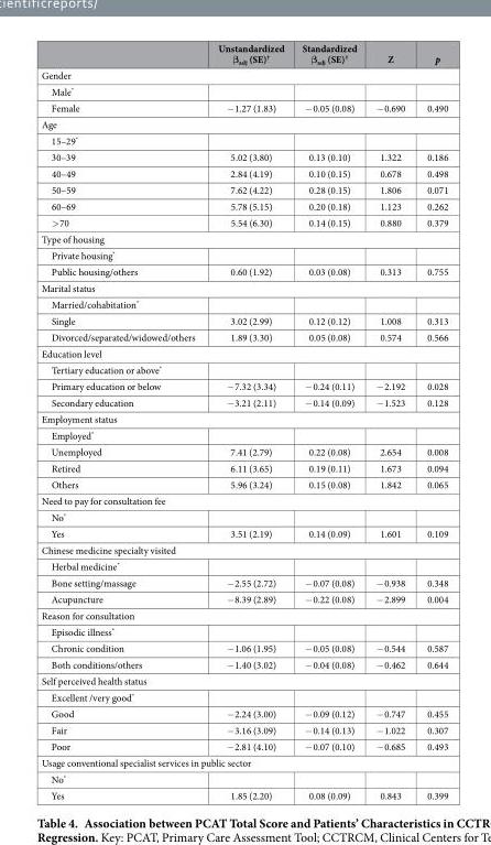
<table><thead><tr><td></td><td>Unstandardized β<sub>adj</sub> (SE)<sup>†</sup></td><td>Standardized β<sub>adj</sub> (SE)<sup>†</sup></td><td>Z</td><td>p</td></tr></thead><tbody><tr><td colspan="5">Gender</td></tr><tr><td colspan="5">Male*</td></tr><tr><td>Female</td><td>− 1.27 (1.83)</td><td>− 0.05 (0.08)</td><td>− 0.690</td><td>0.490</td></tr><tr><td colspan="5">Age</td></tr><tr><td colspan="5">15–29*</td></tr><tr><td>30–39</td><td>5.02 (3.80)</td><td>0.13 (0.10)</td><td>1.322</td><td>0.186</td></tr><tr><td>40–49</td><td>2.84 (4.19)</td><td>0.10 (0.15)</td><td>0.678</td><td>0.498</td></tr><tr><td>50–59</td><td>7.62 (4.22)</td><td>0.28 (0.15)</td><td>1.806</td><td>0.071</td></tr><tr><td>60–69</td><td>5.78 (5.15)</td><td>0.20 (0.18)</td><td>1.123</td><td>0.262</td></tr><tr><td>&gt; 70</td><td>5.54 (6.30)</td><td>0.14 (0.15)</td><td>0.880</td><td>0.379</td></tr><tr><td colspan="5">Type of housing</td></tr><tr><td colspan="5">Private housing*</td></tr><tr><td>Public housing/others</td><td>0.60 (1.92)</td><td>0.03 (0.08)</td><td>0.313</td><td>0.755</td></tr><tr><td colspan="5">Marital status</td></tr><tr><td colspan="5">Married/cohabitation*</td></tr><tr><td>Single</td><td>3.02 (2.99)</td><td>0.12 (0.12)</td><td>1.008</td><td>0.313</td></tr><tr><td>Divorced/separated/widowed/others</td><td>1.89 (3.30)</td><td>0.05 (0.08)</td><td>0.574</td><td>0.566</td></tr><tr><td colspan="5">Education level</td></tr><tr><td colspan="5">Tertiary education or above*</td></tr><tr><td>Primary education or below</td><td>− 7.32 (3.34)</td><td>− 0.24 (0.11)</td><td>− 2.192</td><td>0.028</td></tr><tr><td>Secondary education</td><td>− 3.21 (2.11)</td><td>− 0.14 (0.09)</td><td>− 1.523</td><td>0.128</td></tr><tr><td colspan="5">Employment status</td></tr><tr><td colspan="5">Employed*</td></tr><tr><td>Unemployed</td><td>7.41 (2.79)</td><td>0.22 (0.08)</td><td>2.654</td><td>0.008</td></tr><tr><td>Retired</td><td>6.11 (3.65)</td><td>0.19 (0.11)</td><td>1.673</td><td>0.094</td></tr><tr><td>Others</td><td>5.96 (3.24)</td><td>0.15 (0.08)</td><td>1.842</td><td>0.065</td></tr><tr><td colspan="5">Need to pay for consultation fee</td></tr><tr><td colspan="5">No*</td></tr><tr><td>Yes</td><td>3.51 (2.19)</td><td>0.14 (0.09)</td><td>1.601</td><td>0.109</td></tr><tr><td colspan="5">Chinese medicine specialty visited</td></tr><tr><td colspan="5">Herbal medicine*</td></tr><tr><td>Bone setting/massage</td><td>− 2.55 (2.72)</td><td>− 0.07 (0.08)</td><td>− 0.938</td><td>0.348</td></tr><tr><td>Acupuncture</td><td>− 8.39 (2.89)</td><td>− 0.22 (0.08)</td><td>− 2.899</td><td>0.004</td></tr><tr><td colspan="5">Reason for consultation</td></tr><tr><td colspan="5">Episodic illness*</td></tr><tr><td>Chronic condition</td><td>− 1.06 (1.95)</td><td>− 0.05 (0.08)</td><td>− 0.544</td><td>0.587</td></tr><tr><td>Both conditions/others</td><td>− 1.40 (3.02)</td><td>− 0.04 (0.08)</td><td>− 0.462</td><td>0.644</td></tr><tr><td colspan="5">Self perceived health status</td></tr><tr><td colspan="5">Excellent /very good*</td></tr><tr><td>Good</td><td>− 2.24 (3.00)</td><td>− 0.09 (0.12)</td><td>− 0.747</td><td>0.455</td></tr><tr><td>Fair</td><td>− 3.16 (3.09)</td><td>− 0.14 (0.13)</td><td>− 1.022</td><td>0.307</td></tr><tr><td>Poor</td><td>− 2.81 (4.10)</td><td>− 0.07 (0.10)</td><td>− 0.685</td><td>0.493</td></tr><tr><td colspan="5">Usage conventional specialist services in public sector</td></tr><tr><td colspan="5">No*</td></tr><tr><td>Yes</td><td>1.85 (2.20)</td><td>0.08 (0.09)</td><td>0.843</td><td>0.399</td></tr></tbody></table>